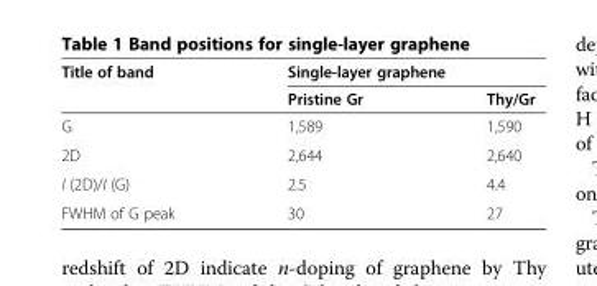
<table><thead><tr><td rowspan="2">Title of band</td><td colspan="2">Single-layer graphene</td></tr><tr><td>Pristine Gr</td><td>Thy/Gr</td></tr></thead><tbody><tr><td>G</td><td>1,589</td><td>1,590</td></tr><tr><td>2D</td><td>2,644</td><td>2,640</td></tr><tr><td>I (2D)/I (G)</td><td>2.5</td><td>4.4</td></tr><tr><td>FWHM of G peak</td><td>30</td><td>27</td></tr></tbody></table>